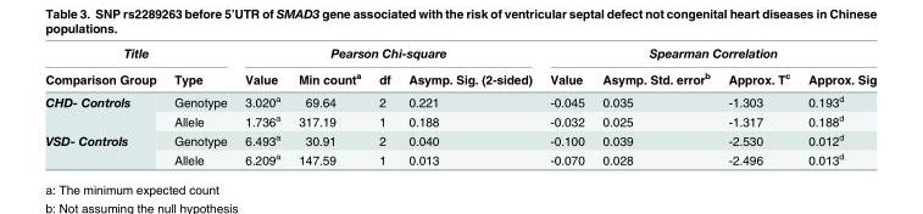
<table><thead><tr><td colspan="2">Title</td><td colspan="4">Pearson Chi-square</td><td colspan="4">Spearman Correlation</td></tr><tr><td>Comparison Group</td><td>Type</td><td>Value</td><td>Min count<sup>a</sup></td><td>df</td><td>Asymp. Sig. (2-sided)</td><td>Value</td><td>Asymp. Std. error<sup>b</sup></td><td>Approx. T<sup>c</sup></td><td>Approx. Sig</td></tr></thead><tbody><tr><td rowspan="2">CHD- Controls</td><td>Genotype</td><td>3.020<sup>a</sup></td><td>69.64</td><td>2</td><td>0.221</td><td>-0.045</td><td>0.035</td><td>-1.303</td><td>0.193<sup>d</sup></td></tr><tr><td>Allele</td><td>1.736<sup>a</sup></td><td>317.19</td><td>1</td><td>0.188</td><td>-0.032</td><td>0.025</td><td>-1.317</td><td>0.188<sup>d</sup></td></tr><tr><td rowspan="2">VSD- Controls</td><td>Genotype</td><td>6.493<sup>a</sup></td><td>30.91</td><td>2</td><td>0.040</td><td>-0.100</td><td>0.039</td><td>-2.530</td><td>0.012<sup>d</sup></td></tr><tr><td>Allele</td><td>6.209<sup>a</sup></td><td>147.59</td><td>1</td><td>0.013</td><td>-0.070</td><td>0.028</td><td>-2.496</td><td>0.013<sup>d</sup></td></tr></tbody></table>